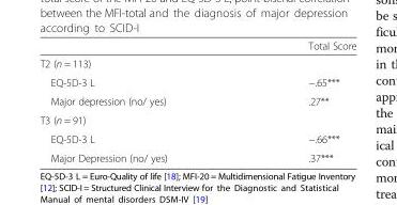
<table><thead><tr><td></td><td>Total Score</td></tr></thead><tbody><tr><td colspan="2">T2 (n = 113)</td></tr><tr><td>EQ-5D-3 L</td><td>−.65***</td></tr><tr><td>Major depression (no/ yes)</td><td>.27**</td></tr><tr><td colspan="2">T3 (n = 91)</td></tr><tr><td>EQ-5D-3 L</td><td>−.66***</td></tr><tr><td>Major Depression (no/ yes)</td><td>.37***</td></tr></tbody></table>